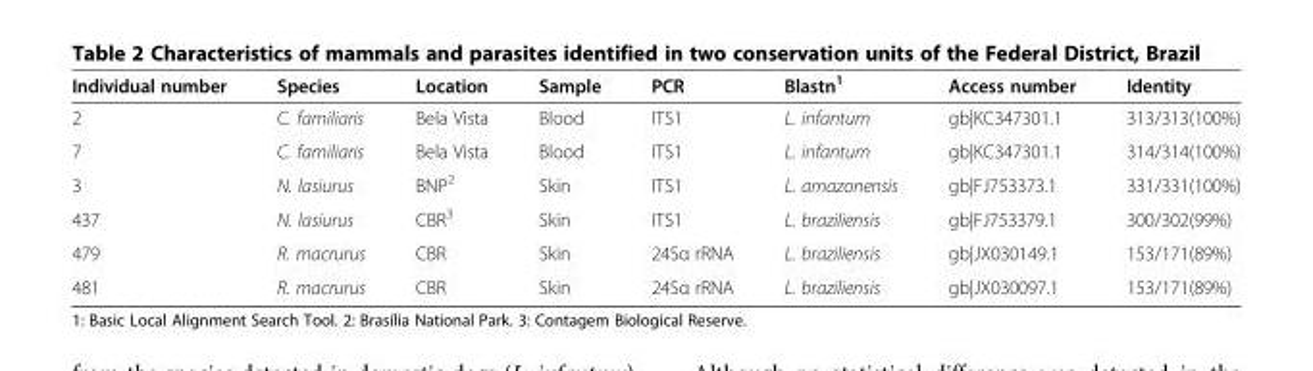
<table><thead><tr><td>Individual number</td><td>Species</td><td>Location</td><td>Sample</td><td>PCR</td><td>Blastn<sup>1</sup></td><td>Access number</td><td>Identity</td></tr></thead><tbody><tr><td>2</td><td>C. familiaris</td><td>Bela Vista</td><td>Blood</td><td>ITS1</td><td>L. infantum</td><td>gb|KC347301.1</td><td>313/313(100%)</td></tr><tr><td>7</td><td>C. familiaris</td><td>Bela Vista</td><td>Blood</td><td>ITS1</td><td>L. infantum</td><td>gb|KC347301.1</td><td>314/314(100%)</td></tr><tr><td>3</td><td>N. lasiurus</td><td>BNP<sup>2</sup></td><td>Skin</td><td>ITS1</td><td>L. amazonensis</td><td>gb|FJ753373.1</td><td>331/331(100%)</td></tr><tr><td>437</td><td>N. lasiurus</td><td>CBR<sup>3</sup></td><td>Skin</td><td>ITS1</td><td>L. braziliensis</td><td>gb|FJ753379.1</td><td>300/302(99%)</td></tr><tr><td>479</td><td>R. macrurus</td><td>CBR</td><td>Skin</td><td>24Sα rRNA</td><td>L. braziliensis</td><td>gb|JX030149.1</td><td>153/171(89%)</td></tr><tr><td>481</td><td>R. macrurus</td><td>CBR</td><td>Skin</td><td>24Sα rRNA</td><td>L. braziliensis</td><td>gb|JX030097.1</td><td>153/171(89%)</td></tr></tbody></table>